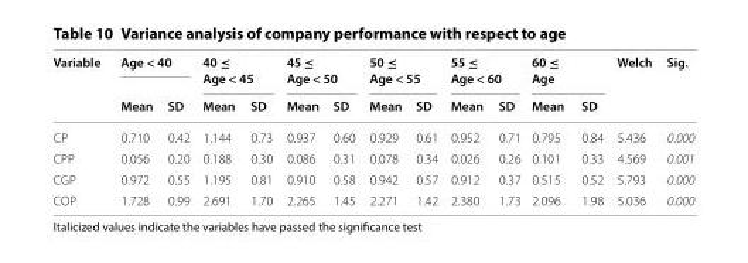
<table><thead><tr><td rowspan="2">Variable</td><td colspan="2">Age &lt; 40</td><td colspan="2">40 ≤ Age &lt; 45</td><td colspan="2">45 ≤ Age &lt; 50</td><td colspan="2">50 ≤ Age &lt; 55</td><td colspan="2">55 ≤ Age &lt; 60</td><td colspan="2">60 ≤ Age</td><td rowspan="2">Welch</td><td rowspan="2">Sig.</td></tr><tr><td>Mean</td><td>SD</td><td>Mean</td><td>SD</td><td>Mean</td><td>SD</td><td>Mean</td><td>SD</td><td>Mean</td><td>SD</td><td>Mean</td><td>SD</td></tr></thead><tbody><tr><td>CP</td><td>0.710</td><td>0.42</td><td>1.144</td><td>0.73</td><td>0.937</td><td>0.60</td><td>0.929</td><td>0.61</td><td>0.952</td><td>0.71</td><td>0.795</td><td>0.84</td><td>5.436</td><td>0.000</td></tr><tr><td>CPP</td><td>0.056</td><td>0.20</td><td>0.188</td><td>0.30</td><td>0.086</td><td>0.31</td><td>0.078</td><td>0.34</td><td>0.026</td><td>0.26</td><td>0.101</td><td>0.33</td><td>4.569</td><td>0.001</td></tr><tr><td>CGP</td><td>0.972</td><td>0.55</td><td>1.195</td><td>0.81</td><td>0.910</td><td>0.58</td><td>0.942</td><td>0.57</td><td>0.912</td><td>0.37</td><td>0.515</td><td>0.52</td><td>5.793</td><td>0.000</td></tr><tr><td>COP</td><td>1.728</td><td>0.99</td><td>2.691</td><td>1.70</td><td>2.265</td><td>1.45</td><td>2.271</td><td>1.42</td><td>2.380</td><td>1.73</td><td>2.096</td><td>1.98</td><td>5.036</td><td>0.000</td></tr></tbody></table>